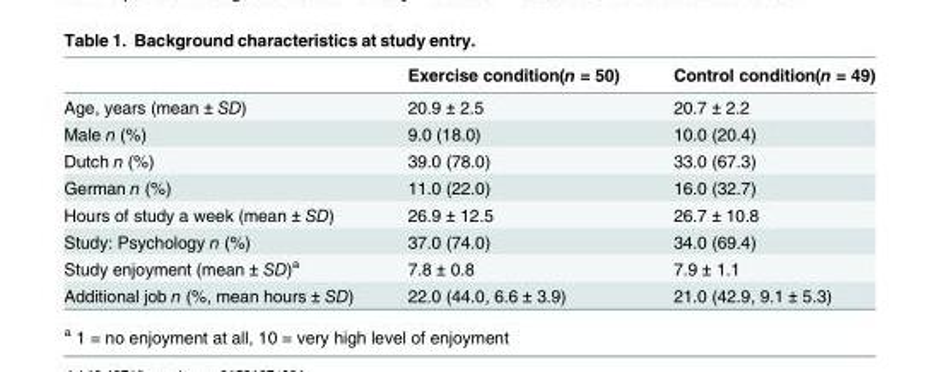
<table><thead><tr><td></td><td>Exercise condition(n = 50)</td><td>Control condition(n = 49)</td></tr></thead><tbody><tr><td>Age, years (mean ± SD)</td><td>20.9 ± 2.5</td><td>20.7 ± 2.2</td></tr><tr><td>Male n (%)</td><td>9.0 (18.0)</td><td>10.0 (20.4)</td></tr><tr><td>Dutch n (%)</td><td>39.0 (78.0)</td><td>33.0 (67.3)</td></tr><tr><td>German n (%)</td><td>11.0 (22.0)</td><td>16.0 (32.7)</td></tr><tr><td>Hours of study a week (mean ± SD)</td><td>26.9 ± 12.5</td><td>26.7 ± 10.8</td></tr><tr><td>Study: Psychology n (%)</td><td>37.0 (74.0)</td><td>34.0 (69.4)</td></tr><tr><td>Study enjoyment (mean ± SD)<sup>a</sup></td><td>7.8 ± 0.8</td><td>7.9 ± 1.1</td></tr><tr><td>Additional job n (%, mean hours ± SD)</td><td>22.0 (44.0, 6.6 ± 3.9)</td><td>21.0 (42.9, 9.1 ± 5.3)</td></tr></tbody></table>